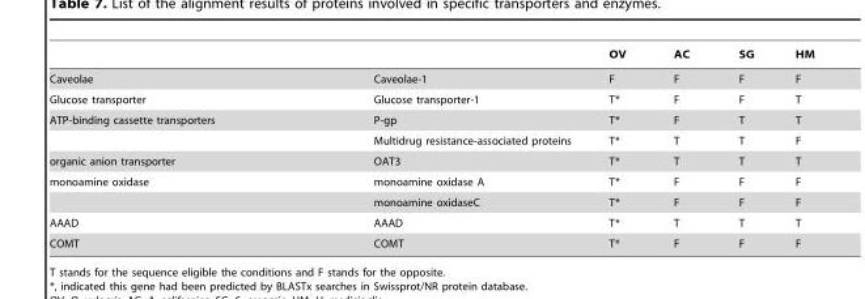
<table><thead><tr><td></td><td></td><td>OV</td><td>AC</td><td>SG</td><td>HM</td></tr></thead><tbody><tr><td>Caveolae</td><td>Caveolae-1</td><td>F</td><td>F</td><td>F</td><td>F</td></tr><tr><td>Glucose transporter</td><td>Glucose transporter-1</td><td>T*</td><td>F</td><td>F</td><td>T</td></tr><tr><td rowspan="2">ATP-binding cassette transporters</td><td>P-gp</td><td>T*</td><td>F</td><td>T</td><td>T</td></tr><tr><td>Multidrug resistance-associated proteins</td><td>T*</td><td>T</td><td>T</td><td>F</td></tr><tr><td>organic anion transporter</td><td>OAT3</td><td>T*</td><td>T</td><td>T</td><td>T</td></tr><tr><td rowspan="2">monoamine oxidase</td><td>monoamine oxidase A</td><td>T*</td><td>F</td><td>F</td><td>F</td></tr><tr><td>monoamine oxidaseC</td><td>T*</td><td>F</td><td>F</td><td>F</td></tr><tr><td>AAAD</td><td>AAAD</td><td>T*</td><td>T</td><td>T</td><td>T</td></tr><tr><td>COMT</td><td>COMT</td><td>T*</td><td>F</td><td>F</td><td>F</td></tr></tbody></table>